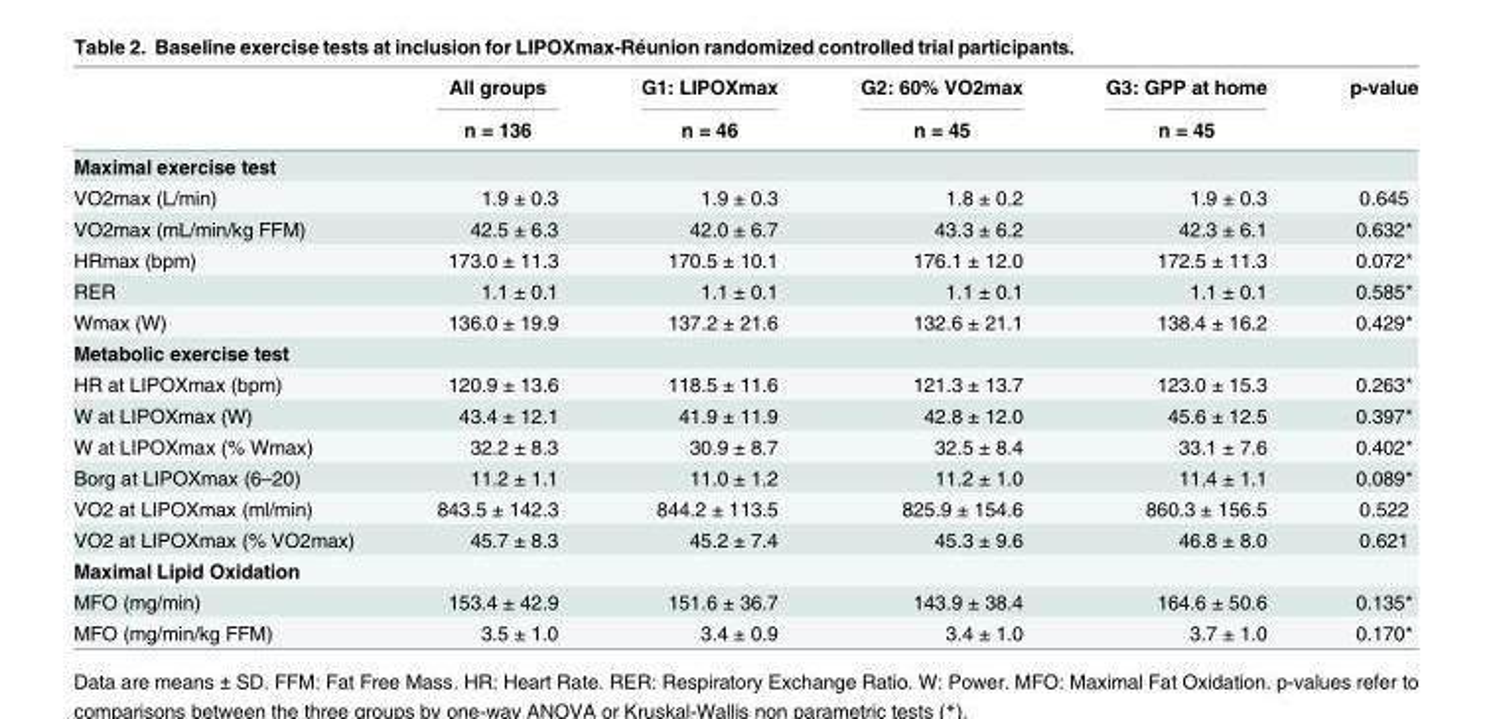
<table><thead><tr><td rowspan="2"></td><td rowspan="2">All groups n = 136</td><td rowspan="2">G1: LIPOXmax n = 46</td><td rowspan="2">G2: 60% VO2max n = 45</td><td rowspan="2">G3: GPP at home n = 45</td><td rowspan="2">p-value</td></tr><tr></tr></thead><tbody><tr><td colspan="6">Maximal exercise test</td></tr><tr><td>VO2max (L/min)</td><td>1.9 ± 0.3</td><td>1.9 ± 0.3</td><td>1.8 ± 0.2</td><td>1.9 ± 0.3</td><td>0.645</td></tr><tr><td>VO2max (mL/min/kg FFM)</td><td>42.5 ± 6.3</td><td>42.0 ± 6.7</td><td>43.3 ± 6.2</td><td>42.3 ± 6.1</td><td>0.632*</td></tr><tr><td>HRmax (bpm)</td><td>173.0 ± 11.3</td><td>170.5 ± 10.1</td><td>176.1 ± 12.0</td><td>172.5 ± 11.3</td><td>0.072*</td></tr><tr><td>RER</td><td>1.1 ± 0.1</td><td>1.1 ± 0.1</td><td>1.1 ± 0.1</td><td>1.1 ± 0.1</td><td>0.585*</td></tr><tr><td>Wmax (W)</td><td>136.0 ± 19.9</td><td>137.2 ± 21.6</td><td>132.6 ± 21.1</td><td>138.4 ± 16.2</td><td>0.429*</td></tr><tr><td colspan="6">Metabolic exercise test</td></tr><tr><td>HR at LIPOXmax (bpm)</td><td>120.9 ± 13.6</td><td>118.5 ± 11.6</td><td>121.3 ± 13.7</td><td>123.0 ± 15.3</td><td>0.263*</td></tr><tr><td>W at LIPOXmax (W)</td><td>43.4 ± 12.1</td><td>41.9 ± 11.9</td><td>42.8 ± 12.0</td><td>45.6 ± 12.5</td><td>0.397*</td></tr><tr><td>W at LIPOXmax (% Wmax)</td><td>32.2 ± 8.3</td><td>30.9 ± 8.7</td><td>32.5 ± 8.4</td><td>33.1 ± 7.6</td><td>0.402*</td></tr><tr><td>Borg at LIPOXmax (6–20)</td><td>11.2 ± 1.1</td><td>11.0 ± 1.2</td><td>11.2 ± 1.0</td><td>11.4 ± 1.1</td><td>0.089*</td></tr><tr><td>VO2 at LIPOXmax (ml/min)</td><td>843.5 ± 142.3</td><td>844.2 ± 113.5</td><td>825.9 ± 154.6</td><td>860.3 ± 156.5</td><td>0.522</td></tr><tr><td>VO2 at LIPOXmax (% VO2max)</td><td>45.7 ± 8.3</td><td>45.2 ± 7.4</td><td>45.3 ± 9.6</td><td>46.8 ± 8.0</td><td>0.621</td></tr><tr><td colspan="6">Maximal Lipid Oxidation</td></tr><tr><td>MFO (mg/min)</td><td>153.4 ± 42.9</td><td>151.6 ± 36.7</td><td>143.9 ± 38.4</td><td>164.6 ± 50.6</td><td>0.135*</td></tr><tr><td>MFO (mg/min/kg FFM)</td><td>3.5 ± 1.0</td><td>3.4 ± 0.9</td><td>3.4 ± 1.0</td><td>3.7 ± 1.0</td><td>0.170*</td></tr></tbody></table>